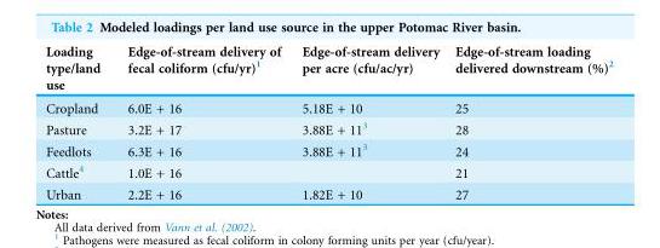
<table><thead><tr><td>Loading type/land use</td><td>Edge-of-stream delivery of fecal coliform (cfu/yr)<sup>1</sup></td><td>Edge-of-stream delivery per acre (cfu/ac/yr)</td><td>Edge-of-stream loading delivered downstream (%)<sup>2</sup></td></tr></thead><tbody><tr><td>Cropland</td><td>6.0E + 16</td><td>5.18E + 10</td><td>25</td></tr><tr><td>Pasture</td><td>3.2E + 17</td><td>3.88E + 11<sup>3</sup></td><td>28</td></tr><tr><td>Feedlots</td><td>6.3E + 16</td><td>3.88E + 11<sup>3</sup></td><td>24</td></tr><tr><td>Cattle<sup>4</sup></td><td>1.0E + 16</td><td></td><td>21</td></tr><tr><td>Urban</td><td>2.2E + 16</td><td>1.82E + 10</td><td>27</td></tr></tbody></table>